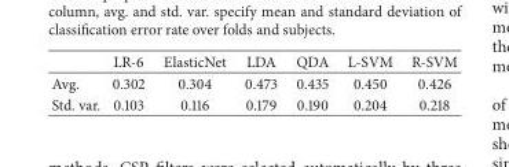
<table><thead><tr><td></td><td>LR-6</td><td>ElasticNet</td><td>LDA</td><td>QDA</td><td>L-SVM</td><td>R-SVM</td></tr></thead><tbody><tr><td>Avg.</td><td>0.302</td><td>0.304</td><td>0.473</td><td>0.435</td><td>0.450</td><td>0.426</td></tr><tr><td>Std. var.</td><td>0.103</td><td>0.116</td><td>0.179</td><td>0.190</td><td>0.204</td><td>0.218</td></tr></tbody></table>